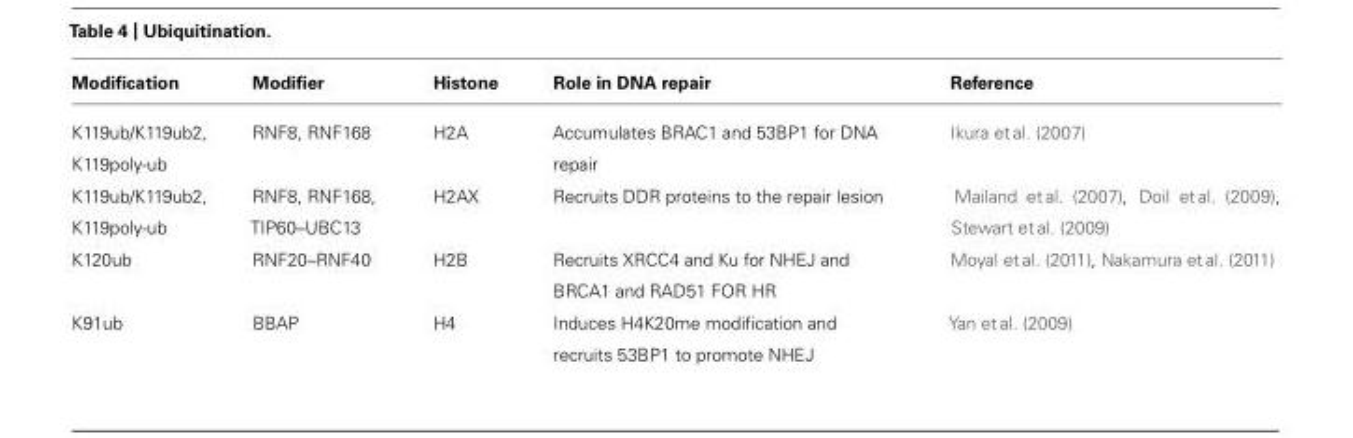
<table><thead><tr><td>Modification</td><td>Modifier</td><td>Histone</td><td>Role in DNA repair</td><td>Reference</td></tr></thead><tbody><tr><td>K119ub/K119ub2, K119poly-ub</td><td>RNF8, RNF168</td><td>H2A</td><td>Accumulates BRAC1 and 53BP1 for DNA repair</td><td>Ikura et al. (2007)</td></tr><tr><td>K119ub/K119ub2, K119poly-ub</td><td>RNF8, RNF168, TIP60–UBC13</td><td>H2AX</td><td>Recruits DDR proteins to the repair lesion</td><td>Mailand et al. (2007), Doil et al. (2009), Stewart et al. (2009)</td></tr><tr><td>K120ub</td><td>RNF20–RNF40</td><td>H2B</td><td>Recruits XRCC4 and Ku for NHEJ and BRCA1 and RAD51 FOR HR</td><td>Moyal et al. (2011), Nakamura et al. (2011)</td></tr><tr><td>K91ub</td><td>BBAP</td><td>H4</td><td>Induces H4K20me modification and recruits 53BP1 to promote NHEJ</td><td>Yan et al. (2009)</td></tr></tbody></table>